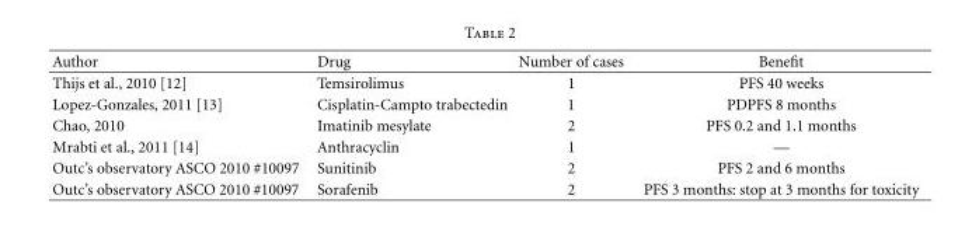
<table><thead><tr><td>Author</td><td>Drug</td><td>Number of cases</td><td>Benefit</td></tr></thead><tbody><tr><td>Thijs et al., 2010 [12]</td><td>Temsirolimus</td><td>1</td><td>PFS 40 weeks</td></tr><tr><td>Lopez-Gonzales, 2011 [13]</td><td>Cisplatin-Campto trabectedin</td><td>1</td><td>PDPFS 8 months</td></tr><tr><td>Chao, 2010</td><td>Imatinib mesylate</td><td>2</td><td>PFS 0.2 and 1.1 months</td></tr><tr><td>Mrabti et al., 2011 [14]</td><td>Anthracyclin</td><td>1</td><td>—</td></tr><tr><td>Outc’s observatory ASCO 2010 #10097</td><td>Sunitinib</td><td>2</td><td>PFS 2 and 6 months</td></tr><tr><td>Outc’s observatory ASCO 2010 #10097</td><td>Sorafenib</td><td>2</td><td>PFS 3 months: stop at 3 months for toxicity</td></tr></tbody></table>